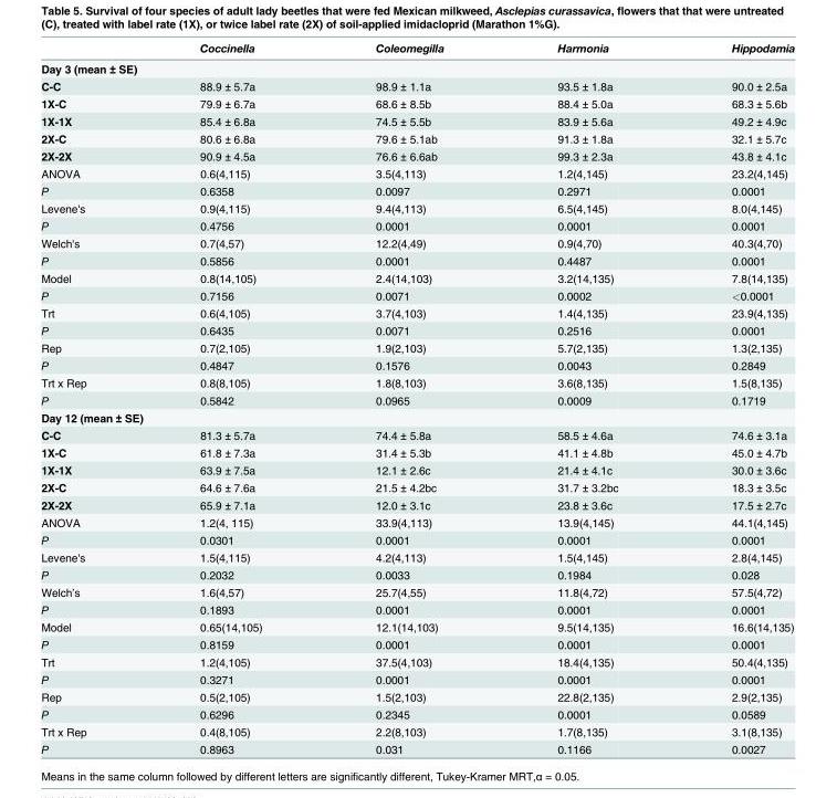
<table><thead><tr><td></td><td>Coccinella</td><td>Coleomegilla</td><td>Harmonia</td><td>Hippodamia</td></tr></thead><tbody><tr><td colspan="5">Day 3 (mean ± SE)</td></tr><tr><td>C-C</td><td>88.9 ± 5.7a</td><td>98.9 ± 1.1a</td><td>93.5 ± 1.8a</td><td>90.0 ± 2.5a</td></tr><tr><td>1X-C</td><td>79.9 ± 6.7a</td><td>68.6 ± 8.5b</td><td>88.4 ± 5.0a</td><td>68.3 ± 5.6b</td></tr><tr><td>1X-1X</td><td>85.4 ± 6.8a</td><td>74.5 ± 5.5b</td><td>83.9 ± 5.6a</td><td>49.2 ± 4.9c</td></tr><tr><td>2X-C</td><td>80.6 ± 6.8a</td><td>79.6 ± 5.1ab</td><td>91.3 ± 1.8a</td><td>32.1 ± 5.7c</td></tr><tr><td>2X-2X</td><td>90.9 ± 4.5a</td><td>76.6 ± 6.6ab</td><td>99.3 ± 2.3a</td><td>43.8 ± 4.1c</td></tr><tr><td>ANOVA</td><td>0.6(4,115)</td><td>3.5(4,113)</td><td>1.2(4,145)</td><td>23.2(4,145)</td></tr><tr><td>P</td><td>0.6358</td><td>0.0097</td><td>0.2971</td><td>0.0001</td></tr><tr><td>Levene&#x27;s</td><td>0.9(4,115)</td><td>9.4(4,113)</td><td>6.5(4,145)</td><td>8.0(4,145)</td></tr><tr><td>P</td><td>0.4756</td><td>0.0001</td><td>0.0001</td><td>0.0001</td></tr><tr><td>Welch&#x27;s</td><td>0.7(4,57)</td><td>12.2(4,49)</td><td>0.9(4,70)</td><td>40.3(4,70)</td></tr><tr><td>P</td><td>0.5856</td><td>0.0001</td><td>0.4487</td><td>0.0001</td></tr><tr><td>Model</td><td>0.8(14,105)</td><td>2.4(14,103)</td><td>3.2(14,135)</td><td>7.8(14,135)</td></tr><tr><td>P</td><td>0.7156</td><td>0.0071</td><td>0.0002</td><td>&lt;0.0001</td></tr><tr><td>Trt</td><td>0.6(4,105)</td><td>3.7(4,103)</td><td>1.4(4,135)</td><td>23.9(4,135)</td></tr><tr><td>P</td><td>0.6435</td><td>0.0071</td><td>0.2516</td><td>0.0001</td></tr><tr><td>Rep</td><td>0.7(2,105)</td><td>1.9(2,103)</td><td>5.7(2,135)</td><td>1.3(2,135)</td></tr><tr><td>P</td><td>0.4847</td><td>0.1576</td><td>0.0043</td><td>0.2849</td></tr><tr><td>Trt x Rep</td><td>0.8(8,105)</td><td>1.8(8,103)</td><td>3.6(8,135)</td><td>1.5(8,135)</td></tr><tr><td>P</td><td>0.5842</td><td>0.0965</td><td>0.0009</td><td>0.1719</td></tr><tr><td colspan="5">Day 12 (mean ± SE)</td></tr><tr><td>C-C</td><td>81.3 ± 5.7a</td><td>74.4 ± 5.8a</td><td>58.5 ± 4.6a</td><td>74.6 ± 3.1a</td></tr><tr><td>1X-C</td><td>61.8 ± 7.3a</td><td>31.4 ± 5.3b</td><td>41.1 ± 4.8b</td><td>45.0 ± 4.7b</td></tr><tr><td>1X-1X</td><td>63.9 ± 7.5a</td><td>12.1 ± 2.6c</td><td>21.4 ± 4.1c</td><td>30.0 ± 3.6c</td></tr><tr><td>2X-C</td><td>64.6 ± 7.6a</td><td>21.5 ± 4.2bc</td><td>31.7 ± 3.2bc</td><td>18.3 ± 3.5c</td></tr><tr><td>2X-2X</td><td>65.9 ± 7.1a</td><td>12.0 ± 3.1c</td><td>23.8 ± 3.6c</td><td>17.5 ± 2.7c</td></tr><tr><td>ANOVA</td><td>1.2(4, 115)</td><td>33.9(4,113)</td><td>13.9(4,145)</td><td>44.1(4,145)</td></tr><tr><td>P</td><td>0.0301</td><td>0.0001</td><td>0.0001</td><td>0.0001</td></tr><tr><td>Levene&#x27;s</td><td>1.5(4,115)</td><td>4.2(4,113)</td><td>1.5(4,145)</td><td>2.8(4,145)</td></tr><tr><td>P</td><td>0.2032</td><td>0.0033</td><td>0.1984</td><td>0.028</td></tr><tr><td>Welch’s</td><td>1.6(4,57)</td><td>25.7(4,55)</td><td>11.8(4,72)</td><td>57.5(4,72)</td></tr><tr><td>P</td><td>0.1893</td><td>0.0001</td><td>0.0001</td><td>0.0001</td></tr><tr><td>Model</td><td>0.65(14,105)</td><td>12.1(14,103)</td><td>9.5(14,135)</td><td>16.6(14,135)</td></tr><tr><td>P</td><td>0.8159</td><td>0.0001</td><td>0.0001</td><td>0.0001</td></tr><tr><td>Trt</td><td>1.2(4,105)</td><td>37.5(4,103)</td><td>18.4(4,135)</td><td>50.4(4,135)</td></tr><tr><td>P</td><td>0.3271</td><td>0.0001</td><td>0.0001</td><td>0.0001</td></tr><tr><td>Rep</td><td>0.5(2,105)</td><td>1.5(2,103)</td><td>22.8(2,135)</td><td>2.9(2,135)</td></tr><tr><td>P</td><td>0.6296</td><td>0.2345</td><td>0.0001</td><td>0.0589</td></tr><tr><td>Trt x Rep</td><td>0.4(8,105)</td><td>2.2(8,103)</td><td>1.7(8,135)</td><td>3.1(8,135)</td></tr><tr><td>P</td><td>0.8963</td><td>0.031</td><td>0.1166</td><td>0.0027</td></tr></tbody></table>